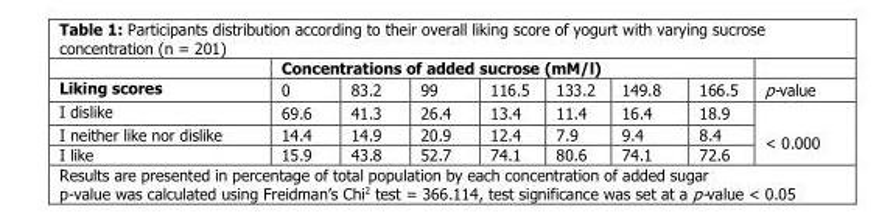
<table><thead><tr><td rowspan="2">Liking scores</td><td colspan="7">Concentrations of added sucrose (mM/l)</td><td rowspan="2">p-value</td></tr><tr><td>0</td><td>83.2</td><td>99</td><td>116.5</td><td>133.2</td><td>149.8</td><td>166.5</td></tr></thead><tbody><tr><td>I dislike</td><td>69.6</td><td>41.3</td><td>26.4</td><td>13.4</td><td>11.4</td><td>16.4</td><td>18.9</td><td rowspan="3">&lt; 0.000</td></tr><tr><td>I neither like nor dislike</td><td>14.4</td><td>14.9</td><td>20.9</td><td>12.4</td><td>7.9</td><td>9.4</td><td>8.4</td></tr><tr><td>I like</td><td>15.9</td><td>43.8</td><td>52.7</td><td>74.1</td><td>80.6</td><td>74.1</td><td>72.6</td></tr></tbody></table>